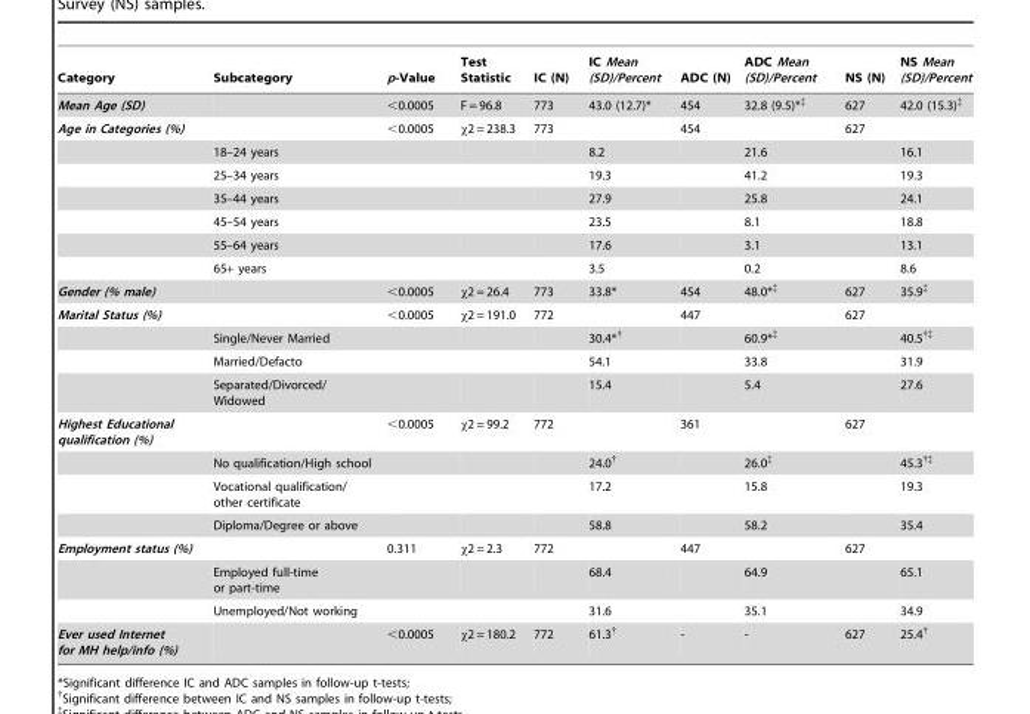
<table><thead><tr><td>Category</td><td>Subcategory</td><td>p-Value</td><td>Test Statistic</td><td>IC (N)</td><td>IC Mean (SD)/Percent</td><td>ADC (N)</td><td>ADC Mean (SD)/Percent</td><td>NS (N)</td><td>NS Mean (SD)/Percent</td></tr></thead><tbody><tr><td>Mean Age (SD)</td><td></td><td>&lt;0.0005</td><td>F = 96.8</td><td>773</td><td>43.0 (12.7)*</td><td>454</td><td>32.8 (9.5)*‡</td><td>627</td><td>42.0 (15.3)‡</td></tr><tr><td rowspan="7">Age in Categories (%)</td><td></td><td>&lt;0.0005</td><td>χ2 = 238.3</td><td>773</td><td></td><td>454</td><td></td><td>627</td><td></td></tr><tr><td>18–24 years</td><td></td><td></td><td></td><td>8.2</td><td></td><td>21.6</td><td></td><td>16.1</td></tr><tr><td>25–34 years</td><td></td><td></td><td></td><td>19.3</td><td></td><td>41.2</td><td></td><td>19.3</td></tr><tr><td>35–44 years</td><td></td><td></td><td></td><td>27.9</td><td></td><td>25.8</td><td></td><td>24.1</td></tr><tr><td>45–54 years</td><td></td><td></td><td></td><td>23.5</td><td></td><td>8.1</td><td></td><td>18.8</td></tr><tr><td>55–64 years</td><td></td><td></td><td></td><td>17.6</td><td></td><td>3.1</td><td></td><td>13.1</td></tr><tr><td>65+ years</td><td></td><td></td><td></td><td>3.5</td><td></td><td>0.2</td><td></td><td>8.6</td></tr><tr><td>Gender (% male)</td><td></td><td>&lt;0.0005</td><td>χ2 = 26.4</td><td>773</td><td>33.8*</td><td>454</td><td>48.0*‡</td><td>627</td><td>35.9‡</td></tr><tr><td rowspan="4">Marital Status (%)</td><td></td><td>&lt;0.0005</td><td>χ2 = 191.0</td><td>772</td><td></td><td>447</td><td></td><td>627</td><td></td></tr><tr><td>Single/Never Married</td><td></td><td></td><td></td><td>30.4*†</td><td></td><td>60.9*‡</td><td></td><td>40.5†‡</td></tr><tr><td>Married/Defacto</td><td></td><td></td><td></td><td>54.1</td><td></td><td>33.8</td><td></td><td>31.9</td></tr><tr><td>Separated/Divorced/ Widowed</td><td></td><td></td><td></td><td>15.4</td><td></td><td>5.4</td><td></td><td>27.6</td></tr><tr><td rowspan="4">Highest Educational qualification (%)</td><td></td><td>&lt;0.0005</td><td>χ2 = 99.2</td><td>772</td><td></td><td>361</td><td></td><td>627</td><td></td></tr><tr><td>No qualification/High school</td><td></td><td></td><td></td><td>24.0†</td><td></td><td>26.0‡</td><td></td><td>45.3†‡</td></tr><tr><td>Vocational qualification/ other certificate</td><td></td><td></td><td></td><td>17.2</td><td></td><td>15.8</td><td></td><td>19.3</td></tr><tr><td>Diploma/Degree or above</td><td></td><td></td><td></td><td>58.8</td><td></td><td>58.2</td><td></td><td>35.4</td></tr><tr><td rowspan="3">Employment status (%)</td><td></td><td>0.311</td><td>χ2 = 2.3</td><td>772</td><td></td><td>447</td><td></td><td>627</td><td></td></tr><tr><td>Employed full-time or part-time</td><td></td><td></td><td></td><td>68.4</td><td></td><td>64.9</td><td></td><td>65.1</td></tr><tr><td>Unemployed/Not working</td><td></td><td></td><td></td><td>31.6</td><td></td><td>35.1</td><td></td><td>34.9</td></tr><tr><td>Ever used Internet for MH help/info (%)</td><td></td><td>&lt;0.0005</td><td>χ2 = 180.2</td><td>772</td><td>61.3†</td><td>-</td><td>-</td><td>627</td><td>25.4†</td></tr></tbody></table>